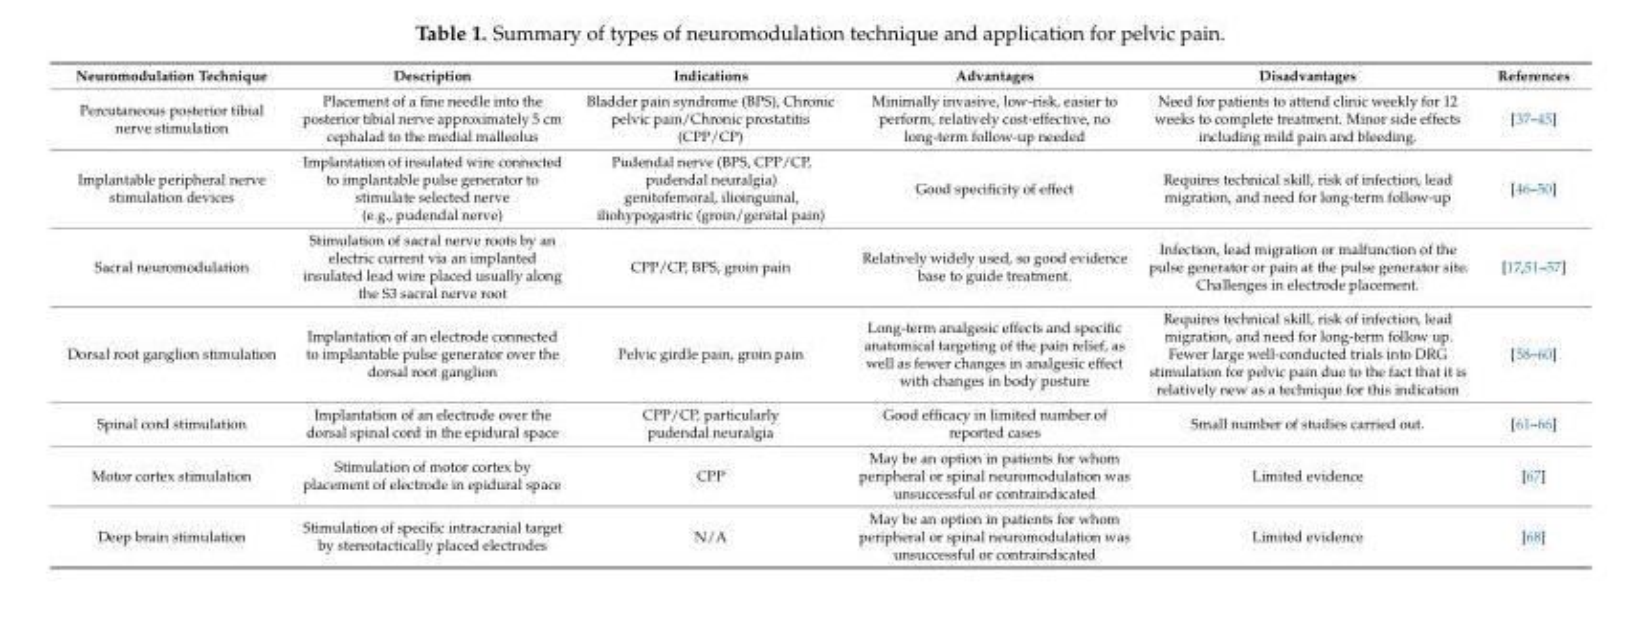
<table><thead><tr><td>Neuromodulation Technique</td><td>Description</td><td>Indications</td><td>Advantages</td><td>Disadvantages</td><td>References</td></tr></thead><tbody><tr><td>Percutaneous posterior tibial nerve stimulation</td><td>Placement of a fine needle into the posterior tibial nerve approximately 5 cm cephalad to the medial malleolus</td><td>Bladder pain syndrome (BPS), Chronic pelvic pain/Chronic prostatitis (CPP/CP)</td><td>Minimally invasive, low-risk, easier to perform, relatively cost-effective, no long-term follow-up needed</td><td>Need for patients to attend clinic weekly for 12 weeks to complete treatment. Minor side effects including mild pain and bleeding.</td><td>[37–45]</td></tr><tr><td>Implantable peripheral nerve stimulation devices</td><td>Implantation of insulated wire connected to implantable pulse generator to stimulate selected nerve (e.g., pudendal nerve)</td><td>Pudendal nerve (BPS, CPP/CP, pudendal neuralgia) genitofemoral, ilioinguinal, iliohypogastric (groin/genital pain)</td><td>Good specificity of effect</td><td>Requires technical skill, risk of infection, lead migration, and need for long-term follow-up</td><td>[46–50]</td></tr><tr><td>Sacral neuromodulation</td><td>Stimulation of sacral nerve roots by an electric current via an implanted insulated lead wire placed usually along the S3 sacral nerve root</td><td>CPP/CP, BPS, groin pain</td><td>Relatively widely used, so good evidence base to guide treatment.</td><td>Infection, lead migration or malfunction of the pulse generator or pain at the pulse generator site. Challenges in electrode placement.</td><td>[17,51–57]</td></tr><tr><td>Dorsal root ganglion stimulation</td><td>Implantation of an electrode connected to implantable pulse generator over the dorsal root ganglion</td><td>Pelvic girdle pain, groin pain</td><td>Long-term analgesic effects and specific anatomical targeting of the pain relief, as well as fewer changes in analgesic effect with changes in body posture</td><td>Requires technical skill, risk of infection, lead migration, and need for long-term follow up. Fewer large well-conducted trials into DRG stimulation for pelvic pain due to the fact that it is relatively new as a technique for this indication</td><td>[58–60]</td></tr><tr><td>Spinal cord stimulation</td><td>Implantation of an electrode over the dorsal spinal cord in the epidural space</td><td>CPP/CP, particularly pudendal neuralgia</td><td>Good efficacy in limited number of reported cases</td><td>Small number of studies carried out.</td><td>[61–66]</td></tr><tr><td>Motor cortex stimulation</td><td>Stimulation of motor cortex by placement of electrode in epidural space</td><td>CPP</td><td>May be an option in patients for whom peripheral or spinal neuromodulation was unsuccessful or contraindicated</td><td>Limited evidence</td><td>[67]</td></tr><tr><td>Deep brain stimulation</td><td>Stimulation of specific intracranial target by stereotactically placed electrodes</td><td>N/A</td><td>May be an option in patients for whom peripheral or spinal neuromodulation was unsuccessful or contraindicated</td><td>Limited evidence</td><td>[68]</td></tr></tbody></table>